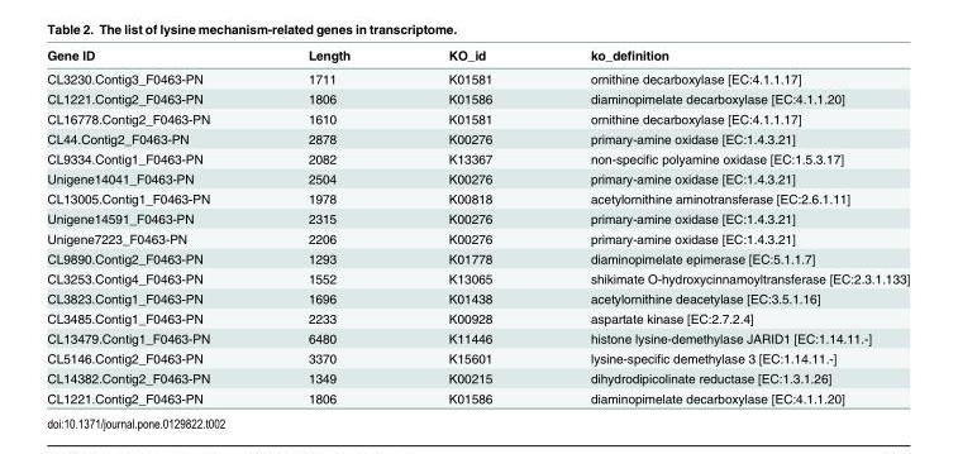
<table><thead><tr><td>Gene ID</td><td>Length</td><td>KO_id</td><td>ko_definition</td></tr></thead><tbody><tr><td>CL3230.Contig3_F0463-PN</td><td>1711</td><td>K01581</td><td>ornithine decarboxylase [EC:4.1.1.17]</td></tr><tr><td>CL1221.Contig2_F0463-PN</td><td>1806</td><td>K01586</td><td>diaminopimelate decarboxylase [EC:4.1.1.20]</td></tr><tr><td>CL16778.Contig2_F0463-PN</td><td>1610</td><td>K01581</td><td>ornithine decarboxylase [EC:4.1.1.17]</td></tr><tr><td>CL44.Contig2_F0463-PN</td><td>2878</td><td>K00276</td><td>primary-amine oxidase [EC:1.4.3.21]</td></tr><tr><td>CL9334.Contig1_F0463-PN</td><td>2082</td><td>K13367</td><td>non-specific polyamine oxidase [EC:1.5.3.17]</td></tr><tr><td>Unigene14041_F0463-PN</td><td>2504</td><td>K00276</td><td>primary-amine oxidase [EC:1.4.3.21]</td></tr><tr><td>CL13005.Contig1_F0463-PN</td><td>1978</td><td>K00818</td><td>acetylornithine aminotransferase [EC:2.6.1.11]</td></tr><tr><td>Unigene14591_F0463-PN</td><td>2315</td><td>K00276</td><td>primary-amine oxidase [EC:1.4.3.21]</td></tr><tr><td>Unigene7223_F0463-PN</td><td>2206</td><td>K00276</td><td>primary-amine oxidase [EC:1.4.3.21]</td></tr><tr><td>CL9890.Contig2_F0463-PN</td><td>1293</td><td>K01778</td><td>diaminopimelate epimerase [EC:5.1.1.7]</td></tr><tr><td>CL3253.Contig4_F0463-PN</td><td>1552</td><td>K13065</td><td>shikimate O-hydroxycinnamoyltransferase [EC:2.3.1.133]</td></tr><tr><td>CL3823.Contig1_F0463-PN</td><td>1696</td><td>K01438</td><td>acetylornithine deacetylase [EC:3.5.1.16]</td></tr><tr><td>CL3485.Contig1_F0463-PN</td><td>2233</td><td>K00928</td><td>aspartate kinase [EC:2.7.2.4]</td></tr><tr><td>CL13479.Contig1_F0463-PN</td><td>6480</td><td>K11446</td><td>histone lysine-demethylase JARID1 [EC:1.14.11.-]</td></tr><tr><td>CL5146.Contig2_F0463-PN</td><td>3370</td><td>K15601</td><td>lysine-specific demethylase 3 [EC:1.14.11.-]</td></tr><tr><td>CL14382.Contig2_F0463-PN</td><td>1349</td><td>K00215</td><td>dihydrodipicolinate reductase [EC:1.3.1.26]</td></tr><tr><td>CL1221.Contig2_F0463-PN</td><td>1806</td><td>K01586</td><td>diaminopimelate decarboxylase [EC:4.1.1.20]</td></tr></tbody></table>